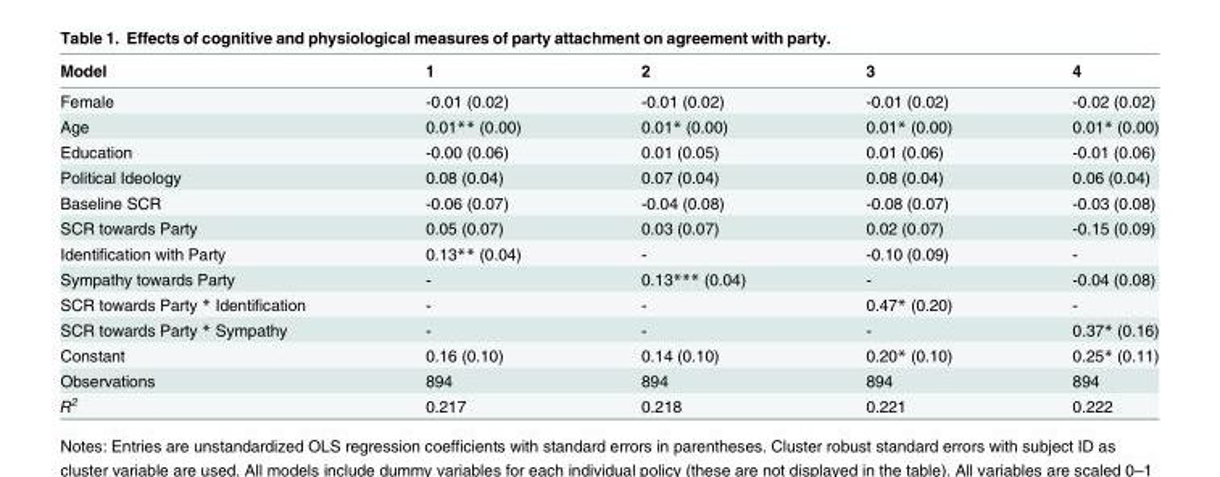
<table><thead><tr><td>Model</td><td>1</td><td>2</td><td>3</td><td>4</td></tr></thead><tbody><tr><td>Female</td><td>-0.01 (0.02)</td><td>-0.01 (0.02)</td><td>-0.01 (0.02)</td><td>-0.02 (0.02)</td></tr><tr><td>Age</td><td>0.01** (0.00)</td><td>0.01* (0.00)</td><td>0.01* (0.00)</td><td>0.01* (0.00)</td></tr><tr><td>Education</td><td>-0.00 (0.06)</td><td>0.01 (0.05)</td><td>0.01 (0.06)</td><td>-0.01 (0.06)</td></tr><tr><td>Political Ideology</td><td>0.08 (0.04)</td><td>0.07 (0.04)</td><td>0.08 (0.04)</td><td>0.06 (0.04)</td></tr><tr><td>Baseline SCR</td><td>-0.06 (0.07)</td><td>-0.04 (0.08)</td><td>-0.08 (0.07)</td><td>-0.03 (0.08)</td></tr><tr><td>SCR towards Party</td><td>0.05 (0.07)</td><td>0.03 (0.07)</td><td>0.02 (0.07)</td><td>-0.15 (0.09)</td></tr><tr><td>Identification with Party</td><td>0.13** (0.04)</td><td>-</td><td>-0.10 (0.09)</td><td>-</td></tr><tr><td>Sympathy towards Party</td><td>-</td><td>0.13*** (0.04)</td><td>-</td><td>-0.04 (0.08)</td></tr><tr><td>SCR towards Party * Identification</td><td>-</td><td>-</td><td>0.47* (0.20)</td><td>-</td></tr><tr><td>SCR towards Party * Sympathy</td><td>-</td><td>-</td><td>-</td><td>0.37* (0.16)</td></tr><tr><td>Constant</td><td>0.16 (0.10)</td><td>0.14 (0.10)</td><td>0.20* (0.10)</td><td>0.25* (0.11)</td></tr><tr><td>Observations</td><td>894</td><td>894</td><td>894</td><td>894</td></tr><tr><td>R<sup>2</sup></td><td>0.217</td><td>0.218</td><td>0.221</td><td>0.222</td></tr></tbody></table>